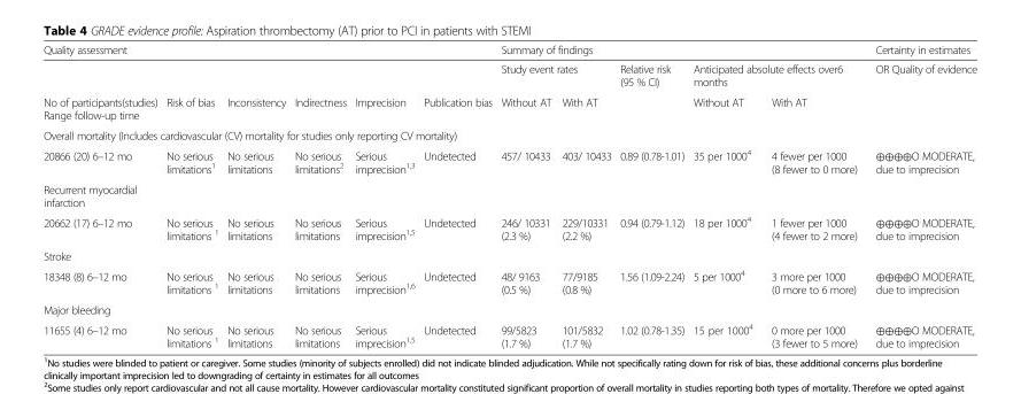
<table><thead><tr><td colspan="6">Quality assessment</td><td colspan="5">Summary of findings</td><td rowspan="3">Certainty in estimates OR Quality of evidence</td></tr><tr><td rowspan="2">No of participants(studies) Range follow-up time</td><td rowspan="2">Risk of bias</td><td rowspan="2">Inconsistency</td><td rowspan="2">Indirectness</td><td rowspan="2">Imprecision</td><td rowspan="2">Publication bias</td><td colspan="2">Study event rates</td><td rowspan="2">Relative risk (95 % CI)</td><td colspan="2">Anticipated absolute effects over6 months</td></tr><tr><td>Without AT</td><td>With AT</td><td>Without AT</td><td>With AT</td></tr></thead><tbody><tr><td colspan="12">Overall mortality (Includes cardiovascular (CV) mortality for studies only reporting CV mortality)</td></tr><tr><td>20866 (20) 6–12 mo</td><td>No serious limitations<sup>1</sup></td><td>No serious limitations</td><td>No serious limitations<sup>2</sup></td><td>Serious imprecision<sup>1,3</sup></td><td>Undetected</td><td>457/ 10433</td><td>403/ 10433</td><td>0.89 (0.78-1.01)</td><td>35 per 1000<sup>4</sup></td><td>4 fewer per 1000 (8 fewer to 0 more)</td><td>⊕⊕⊕⊕O MODERATE, due to imprecision</td></tr><tr><td colspan="12">Recurrent myocardial infarction</td></tr><tr><td>20662 (17) 6–12 mo</td><td>No serious limitations <sup>1</sup></td><td>No serious limitations</td><td>No serious limitations</td><td>Serious imprecision<sup>1,5</sup></td><td>Undetected</td><td>246/ 10331 (2.3 %)</td><td>229/10331 (2.2 %)</td><td>0.94 (0.79-1.12)</td><td>18 per 1000<sup>4</sup></td><td>1 fewer per 1000 (4 fewer to 2 more)</td><td>⊕⊕⊕⊕O MODERATE, due to imprecision</td></tr><tr><td colspan="12">Stroke</td></tr><tr><td>18348 (8) 6–12 mo</td><td>No serious limitations <sup>1</sup></td><td>No serious limitations</td><td>No serious limitations</td><td>Serious imprecision<sup>1,6</sup></td><td>Undetected</td><td>48/ 9163 (0.5 %)</td><td>77/9185 (0.8 %)</td><td>1.56 (1.09-2.24)</td><td>5 per 1000<sup>4</sup></td><td>3 more per 1000 (0 more to 6 more)</td><td>⊕⊕⊕⊕O MODERATE, due to imprecision</td></tr><tr><td colspan="12">Major bleeding</td></tr><tr><td>11655 (4) 6–12 mo</td><td>No serious limitations <sup>1</sup></td><td>No serious limitations</td><td>No serious limitations</td><td>Serious imprecision<sup>1,5</sup></td><td>Undetected</td><td>99/5823 (1.7 %)</td><td>101/5832 (1.7 %)</td><td>1.02 (0.78-1.35)</td><td>15 per 1000<sup>4</sup></td><td>0 more per 1000 (3 fewer to 5 more)</td><td>⊕⊕⊕⊕O MODERATE, due to imprecision</td></tr></tbody></table>